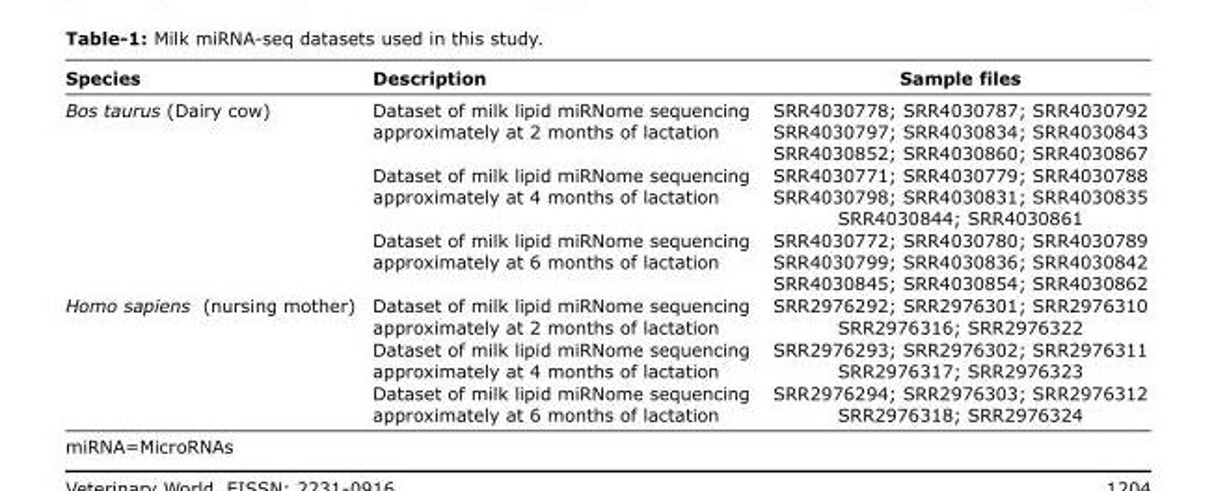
<table><thead><tr><td>Species</td><td>Description</td><td>Sample files</td></tr></thead><tbody><tr><td rowspan="3">Bos taurus (Dairy cow)</td><td>Dataset of milk lipid miRNome sequencing approximately at 2 months of lactation</td><td>SRR4030778; SRR4030787; SRR4030792 SRR4030797; SRR4030834; SRR4030843 SRR4030852; SRR4030860; SRR4030867</td></tr><tr><td>Dataset of milk lipid miRNome sequencing approximately at 4 months of lactation</td><td>SRR4030771; SRR4030779; SRR4030788 SRR4030798; SRR4030831; SRR4030835 SRR4030844; SRR4030861</td></tr><tr><td>Dataset of milk lipid miRNome sequencing approximately at 6 months of lactation</td><td>SRR4030772; SRR4030780; SRR4030789 SRR4030799; SRR4030836; SRR4030842 SRR4030845; SRR4030854; SRR4030862</td></tr><tr><td rowspan="3">Homo sapiens (nursing mother)</td><td>Dataset of milk lipid miRNome sequencing approximately at 2 months of lactation</td><td>SRR2976292; SRR2976301; SRR2976310 SRR2976316; SRR2976322</td></tr><tr><td>Dataset of milk lipid miRNome sequencing approximately at 4 months of lactation</td><td>SRR2976293; SRR2976302; SRR2976311 SRR2976317; SRR2976323</td></tr><tr><td>Dataset of milk lipid miRNome sequencing approximately at 6 months of lactation</td><td>SRR2976294; SRR2976303; SRR2976312 SRR2976318; SRR2976324</td></tr></tbody></table>